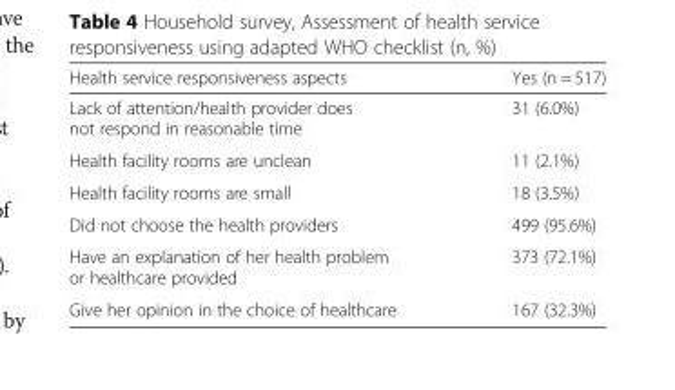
<table><thead><tr><td>Health service responsiveness aspects</td><td>Yes (n = 517)</td></tr></thead><tbody><tr><td>Lack of attention/health provider does not respond in reasonable time</td><td>31 (6.0%)</td></tr><tr><td>Health facility rooms are unclean</td><td>11 (2.1%)</td></tr><tr><td>Health facility rooms are small</td><td>18 (3.5%)</td></tr><tr><td>Did not choose the health providers</td><td>499 (95.6%)</td></tr><tr><td>Have an explanation of her health problem or healthcare provided</td><td>373 (72.1%)</td></tr><tr><td>Give her opinion in the choice of healthcare</td><td>167 (32.3%)</td></tr></tbody></table>